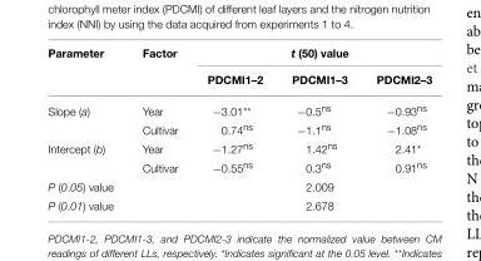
<table><thead><tr><td rowspan="2">Parameter</td><td rowspan="2">Factor</td><td colspan="3">t (50) value</td></tr><tr><td>PDCMI1–2</td><td>PDCMI1–3</td><td>PDCMI2–3</td></tr></thead><tbody><tr><td rowspan="2">Slope (a)</td><td>Year</td><td>−3.01**</td><td>−0.5<sup>ns</sup></td><td>−0.93<sup>ns</sup></td></tr><tr><td>Cultivar</td><td>0.74<sup>ns</sup></td><td>−1.1<sup>ns</sup></td><td>−1.08<sup>ns</sup></td></tr><tr><td rowspan="2">Intercept (b)</td><td>Year</td><td>−1.27<sup>ns</sup></td><td>1.42<sup>ns</sup></td><td>2.41*</td></tr><tr><td>Cultivar</td><td>−0.55<sup>ns</sup></td><td>0.3<sup>ns</sup></td><td>0.91<sup>ns</sup></td></tr><tr><td>P (0.05) value</td><td></td><td></td><td>2.009</td><td></td></tr><tr><td>P (0.01) value</td><td></td><td></td><td>2.678</td><td></td></tr></tbody></table>